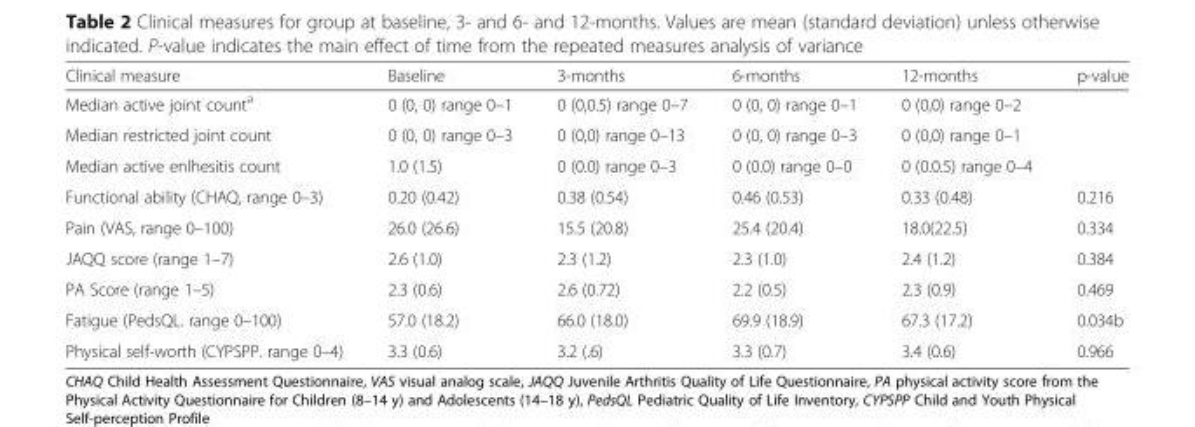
<table><thead><tr><td>Clinical measure</td><td>Baseline</td><td>3-months</td><td>6-months</td><td>12-months</td><td>p-value</td></tr></thead><tbody><tr><td>Median active joint count<sup>a</sup></td><td>0 (0, 0) range 0–1</td><td>0 (0,0.5) range 0–7</td><td>0 (0, 0) range 0–1</td><td>0 (0,0) range 0–2</td><td></td></tr><tr><td>Median restricted joint count</td><td>0 (0, 0) range 0–3</td><td>0 (0,0) range 0–13</td><td>0 (0, 0) range 0–3</td><td>0 (0,0) range 0–1</td><td></td></tr><tr><td>Median active enlhesitis count</td><td>1.0 (1.5)</td><td>0 (0.0) range 0–3</td><td>0 (0.0) range 0–0</td><td>0 (0.0.5) range 0–4</td><td></td></tr><tr><td>Functional ability (CHAQ, range 0–3)</td><td>0.20 (0.42)</td><td>0.38 (0.54)</td><td>0.46 (0.53)</td><td>0.33 (0.48)</td><td>0.216</td></tr><tr><td>Pain (VAS, range 0–100)</td><td>26.0 (26.6)</td><td>15.5 (20.8)</td><td>25.4 (20.4)</td><td>18.0(22.5)</td><td>0.334</td></tr><tr><td>JAQQ score (range 1–7)</td><td>2.6 (1.0)</td><td>2.3 (1.2)</td><td>2.3 (1.0)</td><td>2.4 (1.2)</td><td>0.384</td></tr><tr><td>PA Score (range 1–5)</td><td>2.3 (0.6)</td><td>2.6 (0.72)</td><td>2.2 (0.5)</td><td>2.3 (0.9)</td><td>0.469</td></tr><tr><td>Fatigue (PedsQL. range 0–100)</td><td>57.0 (18.2)</td><td>66.0 (18.0)</td><td>69.9 (18.9)</td><td>67.3 (17.2)</td><td>0.034b</td></tr><tr><td>Physical self-worth (CYPSPP. range 0–4)</td><td>3.3 (0.6)</td><td>3.2 (.6)</td><td>3.3 (0.7)</td><td>3.4 (0.6)</td><td>0.966</td></tr></tbody></table>